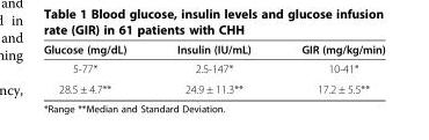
<table><thead><tr><td>Glucose (mg/dL)</td><td>Insulin (IU/mL)</td><td>GIR (mg/kg/min)</td></tr></thead><tbody><tr><td>5-77*</td><td>2.5-147*</td><td>10-41*</td></tr><tr><td>28.5 ± 4.7**</td><td>24.9 ± 11.3**</td><td>17.2 ± 5.5**</td></tr></tbody></table>